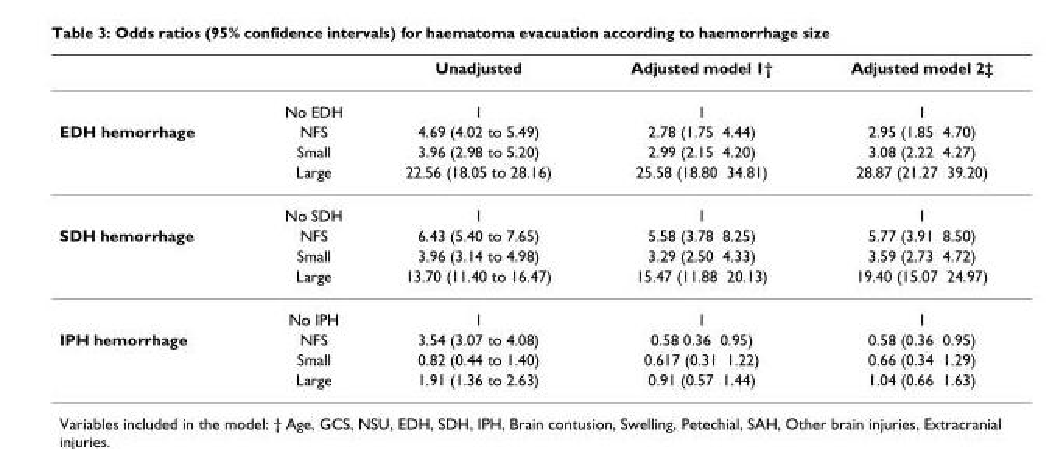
<table><thead><tr><td></td><td></td><td>Unadjusted</td><td>Adjusted model 1†</td><td>Adjusted model 2‡</td></tr></thead><tbody><tr><td></td><td>No EDH</td><td>1</td><td>1</td><td>1</td></tr><tr><td rowspan="4">EDH hemorrhage</td><td>NFS</td><td>4.69 (4.02 to 5.49)</td><td>2.78 (1.75 4.44)</td><td>2.95 (1.85 4.70)</td></tr><tr><td>Small</td><td>3.96 (2.98 to 5.20)</td><td>2.99 (2.15 4.20)</td><td>3.08 (2.22 4.27)</td></tr><tr><td>Large</td><td>22.56 (18.05 to 28.16)</td><td>25.58 (18.80 34.81)</td><td>28.87 (21.27 39.20)</td></tr><tr><td>No SDH</td><td>1</td><td>1</td><td>1</td></tr><tr><td rowspan="4">SDH hemorrhage</td><td>NFS</td><td>6.43 (5.40 to 7.65)</td><td>5.58 (3.78 8.25)</td><td>5.77 (3.91 8.50)</td></tr><tr><td>Small</td><td>3.96 (3.14 to 4.98)</td><td>3.29 (2.50 4.33)</td><td>3.59 (2.73 4.72)</td></tr><tr><td>Large</td><td>13.70 (11.40 to 16.47)</td><td>15.47 (11.88 20.13)</td><td>19.40 (15.07 24.97)</td></tr><tr><td>No IPH</td><td>1</td><td>1</td><td>1</td></tr><tr><td rowspan="3">IPH hemorrhage</td><td>NFS</td><td>3.54 (3.07 to 4.08)</td><td>0.58 0.36 0.95)</td><td>0.58 (0.36 0.95)</td></tr><tr><td>Small</td><td>0.82 (0.44 to 1.40)</td><td>0.617 (0.31 1.22)</td><td>0.66 (0.34 1.29)</td></tr><tr><td>Large</td><td>1.91 (1.36 to 2.63)</td><td>0.91 (0.57 1.44)</td><td>1.04 (0.66 1.63)</td></tr></tbody></table>